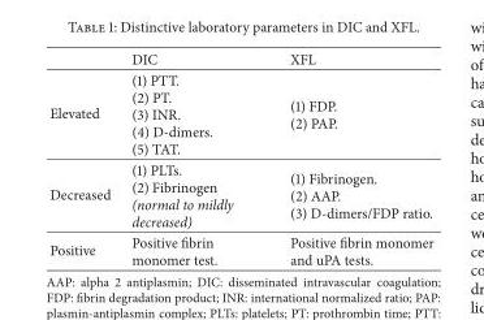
<table><thead><tr><td></td><td>DIC</td><td>XFL</td></tr></thead><tbody><tr><td>Elevated</td><td>(1) PTT. (2) PT. (3) INR. (4) D-dimers. (5) TAT.</td><td>(1) FDP. (2) PAP.</td></tr><tr><td>Decreased</td><td>(1) PLTs. (2) Fibrinogen (normal to mildly decreased)</td><td>(1) Fibrinogen. (2) AAP. (3) D-dimers/FDP ratio.</td></tr><tr><td>Positive</td><td>Positive fibrin monomer test.</td><td>Positive fibrin monomer and uPA tests.</td></tr></tbody></table>